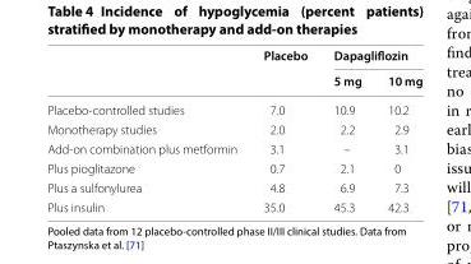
<table><thead><tr><td rowspan="2"></td><td rowspan="2">Placebo</td><td colspan="2">Dapagliflozin</td></tr><tr><td>5 mg</td><td>10 mg</td></tr></thead><tbody><tr><td>Placebo-controlled studies</td><td>7.0</td><td>10.9</td><td>10.2</td></tr><tr><td>Monotherapy studies</td><td>2.0</td><td>2.2</td><td>2.9</td></tr><tr><td>Add-on combination plus metformin</td><td>3.1</td><td>–</td><td>3.1</td></tr><tr><td>Plus pioglitazone</td><td>0.7</td><td>2.1</td><td>0</td></tr><tr><td>Plus a sulfonylurea</td><td>4.8</td><td>6.9</td><td>7.3</td></tr><tr><td>Plus insulin</td><td>35.0</td><td>45.3</td><td>42.3</td></tr></tbody></table>